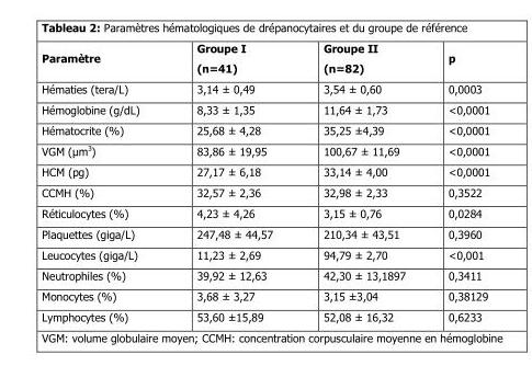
<table><thead><tr><td>Paramètre</td><td>Groupe I (n=41)</td><td>Groupe II (n=82)</td><td>p</td></tr></thead><tbody><tr><td>Hématies (tera/L)</td><td>3,14 ± 0,49</td><td>3,54 ± 0,60</td><td>0,0003</td></tr><tr><td>Hémoglobine (g/dL)</td><td>8,33 ± 1,35</td><td>11,64 ± 1,73</td><td>&lt;0,0001</td></tr><tr><td>Hématocrite (%)</td><td>25,68 ± 4,28</td><td>35,25 ±4,39</td><td>&lt;0,0001</td></tr><tr><td>VGM (μm3)</td><td>83,86 ± 19,95</td><td>100,67 ± 11,69</td><td>&lt;0,0001</td></tr><tr><td>HCM (pg)</td><td>27,17 ± 6,18</td><td>33,14 ± 4,00</td><td>&lt;0,0001</td></tr><tr><td>CCMH (%)</td><td>32,57 ± 2,36</td><td>32,98 ± 2,33</td><td>0,3522</td></tr><tr><td>Réticulocytes (%)</td><td>4,23 ± 4,26</td><td>3,15 ± 0,76</td><td>0,0284</td></tr><tr><td>Plaquettes (giga/L)</td><td>247,48 ± 44,57</td><td>210,34 ± 43,51</td><td>0,3960</td></tr><tr><td>Leucocytes (giga/L)</td><td>11,23 ± 2,69</td><td>94,79 ± 2,70</td><td>&lt;0,001</td></tr><tr><td>Neutrophiles (%)</td><td>39,92 ± 12,63</td><td>42,30 ± 13,1897</td><td>0,3411</td></tr><tr><td>Monocytes (%)</td><td>3,68 ± 3,27</td><td>3,15 ±3,04</td><td>0,38129</td></tr><tr><td>Lymphocytes (%)</td><td>53,60 ±15,89</td><td>52,08 ± 16,32</td><td>0,6233</td></tr></tbody></table>